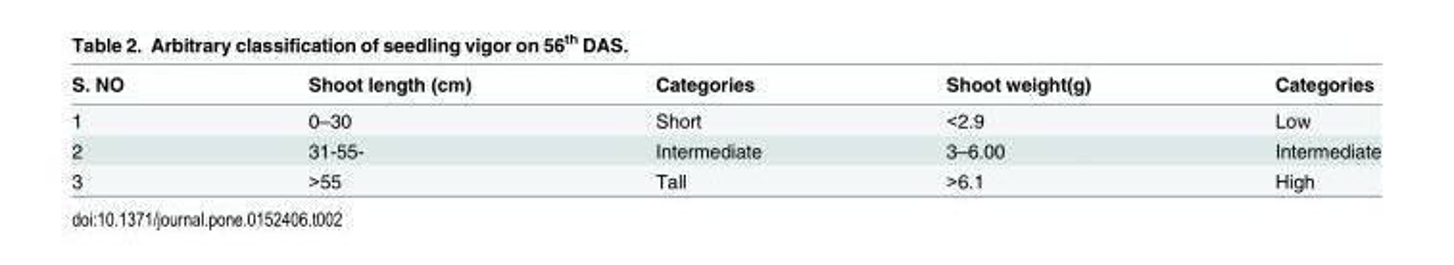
<table><thead><tr><td>S. NO</td><td>Shoot length (cm)</td><td>Categories</td><td>Shoot weight(g)</td><td>Categories</td></tr></thead><tbody><tr><td>1</td><td>0–30</td><td>Short</td><td>&lt;2.9</td><td>Low</td></tr><tr><td>2</td><td>31-55-</td><td>Intermediate</td><td>3–6.00</td><td>Intermediate</td></tr><tr><td>3</td><td>&gt;55</td><td>Tall</td><td>&gt;6.1</td><td>High</td></tr></tbody></table>